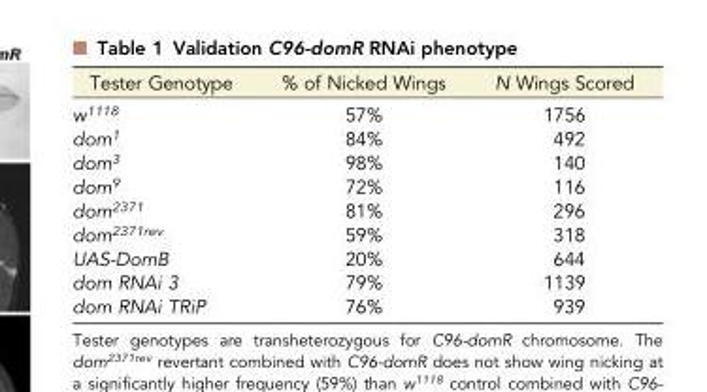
<table><thead><tr><td>Tester Genotype</td><td>% of Nicked Wings</td><td>N Wings Scored</td></tr></thead><tbody><tr><td>w<sup>1118</sup></td><td>57%</td><td>1756</td></tr><tr><td>dom<sup>1</sup></td><td>84%</td><td>492</td></tr><tr><td>dom<sup>3</sup></td><td>98%</td><td>140</td></tr><tr><td>dom<sup>9</sup></td><td>72%</td><td>116</td></tr><tr><td>dom<sup>2371</sup></td><td>81%</td><td>296</td></tr><tr><td>dom<sup>2371rev</sup></td><td>59%</td><td>318</td></tr><tr><td>UAS-DomB</td><td>20%</td><td>644</td></tr><tr><td>dom RNAi 3</td><td>79%</td><td>1139</td></tr><tr><td>dom RNAi TRiP</td><td>76%</td><td>939</td></tr></tbody></table>